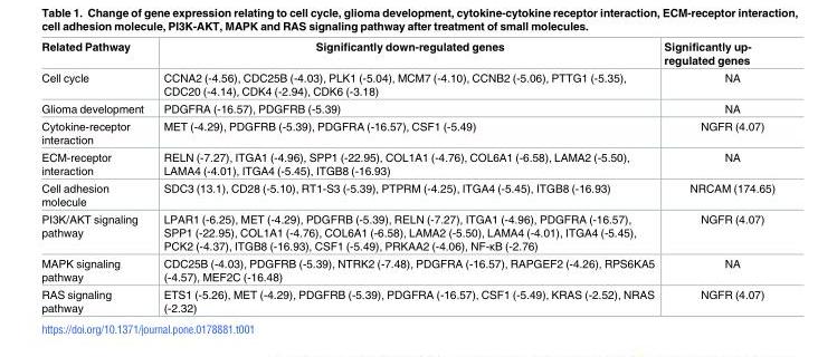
<table><thead><tr><td>Related Pathway</td><td>Significantly down-regulated genes</td><td>Significantly up- regulated genes</td></tr></thead><tbody><tr><td>Cell cycle</td><td>CCNA2 (-4.56), CDC25B (-4.03), PLK1 (-5.04), MCM7 (-4.10), CCNB2 (-5.06), PTTG1 (-5.35), CDC20 (-4.14), CDK4 (-2.94), CDK6 (-3.18)</td><td>NA</td></tr><tr><td>Glioma development</td><td>PDGFRA (-16.57), PDGFRB (-5.39)</td><td>NA</td></tr><tr><td>Cytokine-receptor interaction</td><td>MET (-4.29), PDGFRB (-5.39), PDGFRA (-16.57), CSF1 (-5.49)</td><td>NGFR (4.07)</td></tr><tr><td>ECM-receptor interaction</td><td>RELN (-7.27), ITGA1 (-4.96), SPP1 (-22.95), COL1A1 (-4.76), COL6A1 (-6.58), LAMA2 (-5.50), LAMA4 (-4.01), ITGA4 (-5.45), ITGB8 (-16.93)</td><td>NA</td></tr><tr><td>Cell adhesion molecule</td><td>SDC3 (13.1), CD28 (-5.10), RT1-S3 (-5.39), PTPRM (-4.25), ITGA4 (-5.45), ITGB8 (-16.93)</td><td>NRCAM (174.65)</td></tr><tr><td>PI3K/AKT signaling pathway</td><td>LPAR1 (-6.25), MET (-4.29), PDGFRB (-5.39), RELN (-7.27), ITGA1 (-4.96), PDGFRA (-16.57), SPP1 (-22.95), COL1A1 (-4.76), COL6A1 (-6.58), LAMA2 (-5.50), LAMA4 (-4.01), ITGA4 (-5.45), PCK2 (-4.37), ITGB8 (-16.93), CSF1 (-5.49), PRKAA2 (-4.06), NF-κB (-2.76)</td><td>NGFR (4.07)</td></tr><tr><td>MAPK signaling pathway</td><td>CDC25B (-4.03), PDGFRB (-5.39), NTRK2 (-7.48), PDGFRA (-16.57), RAPGEF2 (-4.26), RPS6KA5 (-4.57), MEF2C (-16.48)</td><td>NA</td></tr><tr><td>RAS signaling pathway</td><td>ETS1 (-5.26), MET (-4.29), PDGFRB (-5.39), PDGFRA (-16.57), CSF1 (-5.49), KRAS (-2.52), NRAS (-2.32)</td><td>NGFR (4.07)</td></tr></tbody></table>